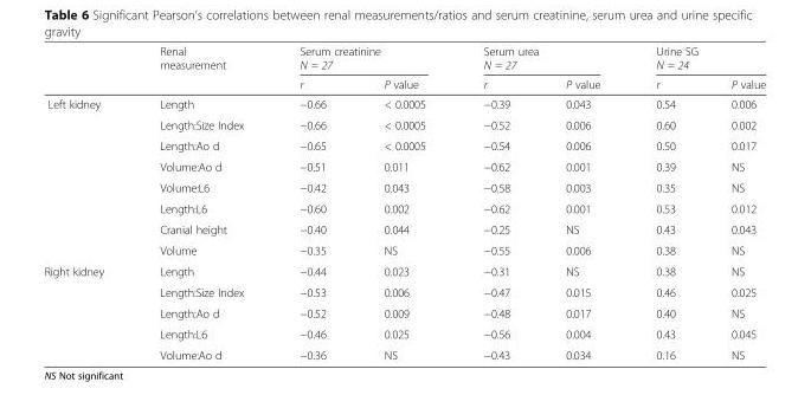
<table><thead><tr><td rowspan="2"></td><td rowspan="2">Renal measurement</td><td colspan="2">Serum creatinine N = 27</td><td colspan="2">Serum urea N = 27</td><td colspan="2">Urine SG N = 24</td></tr><tr><td>r</td><td>P value</td><td>r</td><td>P value</td><td>r</td><td>P value</td></tr></thead><tbody><tr><td rowspan="8">Left kidney</td><td>Length</td><td>−0.66</td><td>&lt; 0.0005</td><td>−0.39</td><td>0.043</td><td>0.54</td><td>0.006</td></tr><tr><td>Length:Size Index</td><td>−0.66</td><td>&lt; 0.0005</td><td>−0.52</td><td>0.006</td><td>0.60</td><td>0.002</td></tr><tr><td>Length:Ao d</td><td>−0.65</td><td>&lt; 0.0005</td><td>−0.54</td><td>0.006</td><td>0.50</td><td>0.017</td></tr><tr><td>Volume:Ao d</td><td>−0.51</td><td>0.011</td><td>−0.62</td><td>0.001</td><td>0.39</td><td>NS</td></tr><tr><td>Volume:L6</td><td>−0.42</td><td>0.043</td><td>−0.58</td><td>0.003</td><td>0.35</td><td>NS</td></tr><tr><td>Length:L6</td><td>−0.60</td><td>0.002</td><td>−0.62</td><td>0.001</td><td>0.53</td><td>0.012</td></tr><tr><td>Cranial height</td><td>−0.40</td><td>0.044</td><td>−0.25</td><td>NS</td><td>0.43</td><td>0.043</td></tr><tr><td>Volume</td><td>−0.35</td><td>NS</td><td>−0.55</td><td>0.006</td><td>0.38</td><td>NS</td></tr><tr><td rowspan="5">Right kidney</td><td>Length</td><td>−0.44</td><td>0.023</td><td>−0.31</td><td>NS</td><td>0.38</td><td>NS</td></tr><tr><td>Length:Size Index</td><td>−0.53</td><td>0.006</td><td>−0.47</td><td>0.015</td><td>0.46</td><td>0.025</td></tr><tr><td>Length:Ao d</td><td>−0.52</td><td>0.009</td><td>−0.48</td><td>0.017</td><td>0.40</td><td>NS</td></tr><tr><td>Length:L6</td><td>−0.46</td><td>0.025</td><td>−0.56</td><td>0.004</td><td>0.43</td><td>0.045</td></tr><tr><td>Volume:Ao d</td><td>−0.36</td><td>NS</td><td>−0.43</td><td>0.034</td><td>0.16</td><td>NS</td></tr></tbody></table>